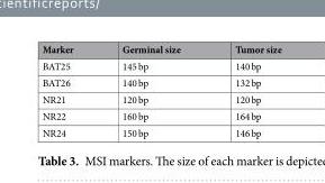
<table><thead><tr><td>Marker</td><td>Germinal size</td><td>Tumor size</td></tr></thead><tbody><tr><td>BAT25</td><td>145 bp</td><td>140 bp</td></tr><tr><td>BAT26</td><td>140 bp</td><td>132 bp</td></tr><tr><td>NR21</td><td>120 bp</td><td>120 bp</td></tr><tr><td>NR22</td><td>160 bp</td><td>164 bp</td></tr><tr><td>NR24</td><td>150 bp</td><td>146 bp</td></tr></tbody></table>